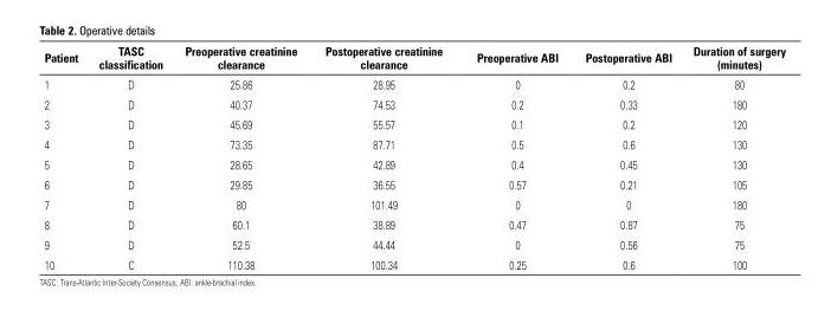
<table><thead><tr><td>Patient</td><td>TASC classification</td><td>Preoperative creatinine clearance</td><td>Postoperative creatinine clearance</td><td>Preoperative ABI</td><td>Postoperative ABI</td><td>Duration of surgery (minutes)</td></tr></thead><tbody><tr><td>1</td><td>D</td><td>25.86</td><td>28.95</td><td>0</td><td>0.2</td><td>80</td></tr><tr><td>2</td><td>D</td><td>40.37</td><td>74.53</td><td>0.2</td><td>0.33</td><td>180</td></tr><tr><td>3</td><td>D</td><td>45.69</td><td>55.57</td><td>0.1</td><td>0.2</td><td>120</td></tr><tr><td>4</td><td>D</td><td>73.35</td><td>87.71</td><td>0.5</td><td>0.6</td><td>130</td></tr><tr><td>5</td><td>D</td><td>28.65</td><td>42.89</td><td>0.4</td><td>0.45</td><td>130</td></tr><tr><td>6</td><td>D</td><td>29.85</td><td>36.55</td><td>0.57</td><td>0.21</td><td>105</td></tr><tr><td>7</td><td>D</td><td>80</td><td>101.49</td><td>0</td><td>0</td><td>180</td></tr><tr><td>8</td><td>D</td><td>60.1</td><td>38.89</td><td>0.47</td><td>0.87</td><td>75</td></tr><tr><td>9</td><td>D</td><td>52.5</td><td>44.44</td><td>0</td><td>0.56</td><td>75</td></tr><tr><td>10</td><td>C</td><td>110.38</td><td>100.34</td><td>0.25</td><td>0.6</td><td>100</td></tr></tbody></table>